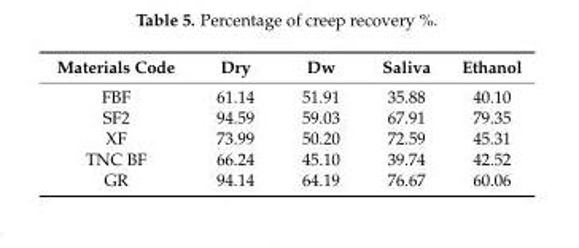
<table><thead><tr><td>Materials Code</td><td>Dry</td><td>Dw</td><td>Saliva</td><td>Ethanol</td></tr></thead><tbody><tr><td>FBF</td><td>61.14</td><td>51.91</td><td>35.88</td><td>40.10</td></tr><tr><td>SF2</td><td>94.59</td><td>59.03</td><td>67.91</td><td>79.35</td></tr><tr><td>XF</td><td>73.99</td><td>50.20</td><td>72.59</td><td>45.31</td></tr><tr><td>TNC BF</td><td>66.24</td><td>45.10</td><td>39.74</td><td>42.52</td></tr><tr><td>GR</td><td>94.14</td><td>64.19</td><td>76.67</td><td>60.06</td></tr></tbody></table>